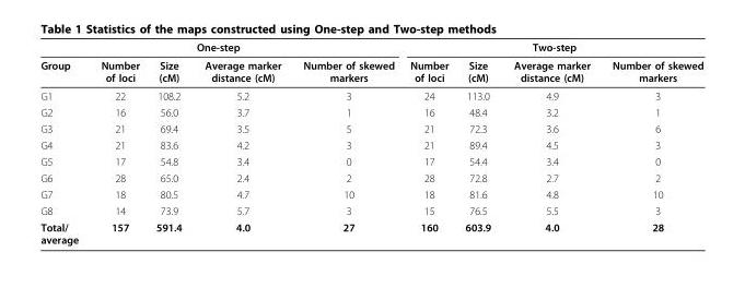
<table><thead><tr><td colspan="5">One-step</td><td colspan="4">Two-step</td></tr><tr><td>Group</td><td>Number of loci</td><td>Size (cM)</td><td>Average marker distance (cM)</td><td>Number of skewed markers</td><td>Number of loci</td><td>Size (cM)</td><td>Average marker distance (cM)</td><td>Number of skewed markers</td></tr></thead><tbody><tr><td>G1</td><td>22</td><td>108.2</td><td>5.2</td><td>3</td><td>24</td><td>113.0</td><td>4.9</td><td>3</td></tr><tr><td>G2</td><td>16</td><td>56.0</td><td>3.7</td><td>1</td><td>16</td><td>48.4</td><td>3.2</td><td>1</td></tr><tr><td>G3</td><td>21</td><td>69.4</td><td>3.5</td><td>5</td><td>21</td><td>72.3</td><td>3.6</td><td>6</td></tr><tr><td>G4</td><td>21</td><td>83.6</td><td>4.2</td><td>3</td><td>21</td><td>89.4</td><td>4.5</td><td>3</td></tr><tr><td>G5</td><td>17</td><td>54.8</td><td>3.4</td><td>0</td><td>17</td><td>54.4</td><td>3.4</td><td>0</td></tr><tr><td>G6</td><td>28</td><td>65.0</td><td>2.4</td><td>2</td><td>28</td><td>72.8</td><td>2.7</td><td>2</td></tr><tr><td>G7</td><td>18</td><td>80.5</td><td>4.7</td><td>10</td><td>18</td><td>81.6</td><td>4.8</td><td>10</td></tr><tr><td>G8</td><td>14</td><td>73.9</td><td>5.7</td><td>3</td><td>15</td><td>76.5</td><td>5.5</td><td>3</td></tr><tr><td>Total/ average</td><td>157</td><td>591.4</td><td>4.0</td><td>27</td><td>160</td><td>603.9</td><td>4.0</td><td>28</td></tr></tbody></table>